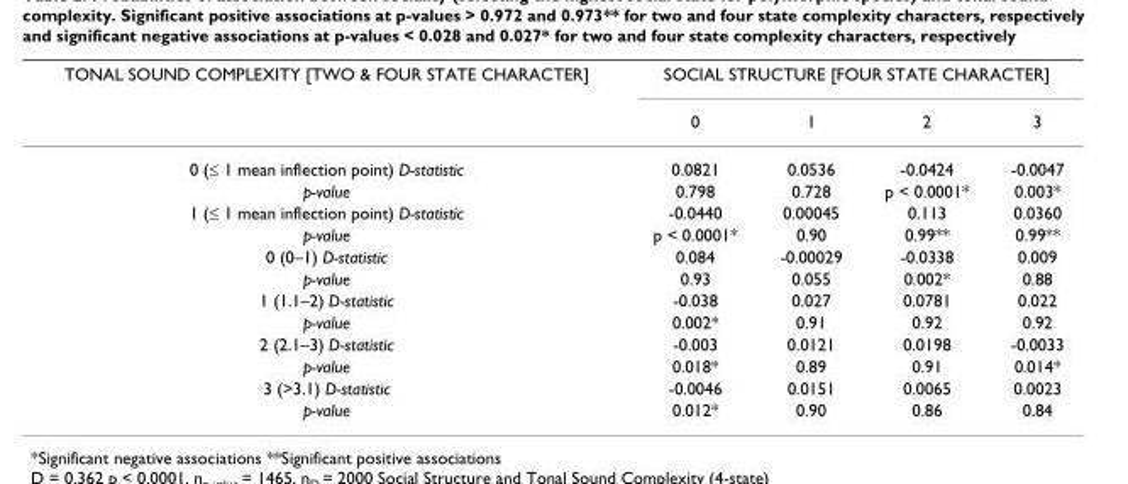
<table><thead><tr><td rowspan="2">TONAL SOUND COMPLEXITY [TWO &amp; FOUR STATE CHARACTER]</td><td colspan="4">SOCIAL STRUCTURE [FOUR STATE CHARACTER]</td></tr><tr><td>0</td><td>1</td><td>2</td><td>3</td></tr></thead><tbody><tr><td>0 (≤ 1 mean inflection point) D-statistic</td><td>0.0821</td><td>0.0536</td><td>-0.0424</td><td>-0.0047</td></tr><tr><td>p-value</td><td>0.798</td><td>0.728</td><td>p &lt; 0.0001*</td><td>0.003*</td></tr><tr><td>1 (≤ 1 mean inflection point) D-statistic</td><td>-0.0440</td><td>0.00045</td><td>0.113</td><td>0.0360</td></tr><tr><td>p-value</td><td>p &lt; 0.0001*</td><td>0.90</td><td>0.99**</td><td>0.99**</td></tr><tr><td>0 (0–1) D-statistic</td><td>0.084</td><td>-0.00029</td><td>-0.0338</td><td>0.009</td></tr><tr><td>p-value</td><td>0.93</td><td>0.055</td><td>0.002*</td><td>0.88</td></tr><tr><td>1 (1.1–2) D-statistic</td><td>-0.038</td><td>0.027</td><td>0.0781</td><td>0.022</td></tr><tr><td>p-value</td><td>0.002*</td><td>0.91</td><td>0.92</td><td>0.92</td></tr><tr><td>2 (2.1–3) D-statistic</td><td>-0.003</td><td>0.0121</td><td>0.0198</td><td>-0.0033</td></tr><tr><td>p-value</td><td>0.018*</td><td>0.89</td><td>0.91</td><td>0.014*</td></tr><tr><td>3 (&gt;3.1) D-statistic</td><td>-0.0046</td><td>0.0151</td><td>0.0065</td><td>0.0023</td></tr><tr><td>p-value</td><td>0.012*</td><td>0.90</td><td>0.86</td><td>0.84</td></tr></tbody></table>